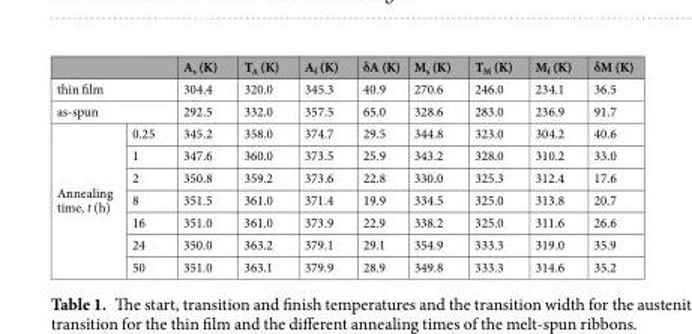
<table><thead><tr><td></td><td></td><td>A<sub>s</sub> (K)</td><td>T<sub>A</sub> (K)</td><td>A<sub>f</sub> (K)</td><td>δA (K)</td><td>M<sub>s</sub> (K)</td><td>T<sub>M</sub> (K)</td><td>M<sub>f</sub> (K)</td><td>δM (K)</td></tr></thead><tbody><tr><td colspan="2">thin film</td><td>304.4</td><td>320.0</td><td>345.3</td><td>40.9</td><td>270.6</td><td>246.0</td><td>234.1</td><td>36.5</td></tr><tr><td colspan="2">as-spun</td><td>292.5</td><td>332.0</td><td>357.5</td><td>65.0</td><td>328.6</td><td>283.0</td><td>236.9</td><td>91.7</td></tr><tr><td rowspan="7">Annealing time, t (h)</td><td>0.25</td><td>345.2</td><td>358.0</td><td>374.7</td><td>29.5</td><td>344.8</td><td>323.0</td><td>304.2</td><td>40.6</td></tr><tr><td>1</td><td>347.6</td><td>360.0</td><td>373.5</td><td>25.9</td><td>343.2</td><td>328.0</td><td>310.2</td><td>33.0</td></tr><tr><td>2</td><td>350.8</td><td>359.2</td><td>373.6</td><td>22.8</td><td>330.0</td><td>325.3</td><td>312.4</td><td>17.6</td></tr><tr><td>8</td><td>351.5</td><td>361.0</td><td>371.4</td><td>19.9</td><td>334.5</td><td>325.0</td><td>313.8</td><td>20.7</td></tr><tr><td>16</td><td>351.0</td><td>361.0</td><td>373.9</td><td>22.9</td><td>338.2</td><td>325.0</td><td>311.6</td><td>26.6</td></tr><tr><td>24</td><td>350.0</td><td>363.2</td><td>379.1</td><td>29.1</td><td>354.9</td><td>333.3</td><td>319.0</td><td>35.9</td></tr><tr><td>50</td><td>351.0</td><td>363.1</td><td>379.9</td><td>28.9</td><td>349.8</td><td>333.3</td><td>314.6</td><td>35.2</td></tr></tbody></table>